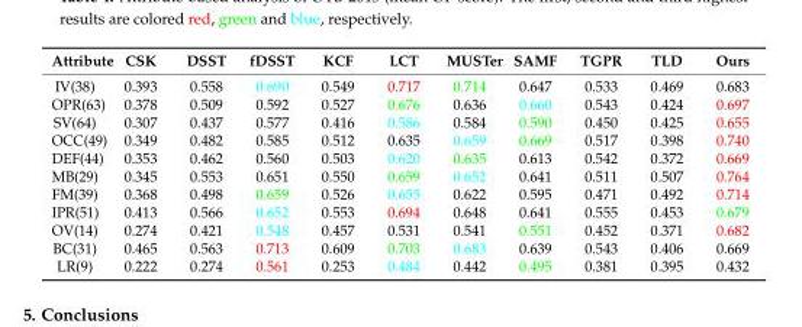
<table><thead><tr><td>Attribute</td><td>CSK</td><td>DSST</td><td>fDSST</td><td>KCF</td><td>LCT</td><td>MUSTer</td><td>SAMF</td><td>TGPR</td><td>TLD</td><td>Ours</td></tr></thead><tbody><tr><td>IV(38)</td><td>0.393</td><td>0.558</td><td>0.690</td><td>0.549</td><td>0.717</td><td>0.714</td><td>0.647</td><td>0.533</td><td>0.469</td><td>0.683</td></tr><tr><td>OPR(63)</td><td>0.378</td><td>0.509</td><td>0.592</td><td>0.527</td><td>0.676</td><td>0.636</td><td>0.660</td><td>0.543</td><td>0.424</td><td>0.697</td></tr><tr><td>SV(64)</td><td>0.307</td><td>0.437</td><td>0.577</td><td>0.416</td><td>0.586</td><td>0.584</td><td>0.590</td><td>0.450</td><td>0.425</td><td>0.655</td></tr><tr><td>OCC(49)</td><td>0.349</td><td>0.482</td><td>0.585</td><td>0.512</td><td>0.635</td><td>0.659</td><td>0.669</td><td>0.517</td><td>0.398</td><td>0.740</td></tr><tr><td>DEF(44)</td><td>0.353</td><td>0.462</td><td>0.560</td><td>0.503</td><td>0.620</td><td>0.635</td><td>0.613</td><td>0.542</td><td>0.372</td><td>0.669</td></tr><tr><td>MB(29)</td><td>0.345</td><td>0.553</td><td>0.651</td><td>0.550</td><td>0.659</td><td>0.652</td><td>0.641</td><td>0.511</td><td>0.507</td><td>0.764</td></tr><tr><td>FM(39)</td><td>0.368</td><td>0.498</td><td>0.659</td><td>0.526</td><td>0.655</td><td>0.622</td><td>0.595</td><td>0.471</td><td>0.492</td><td>0.714</td></tr><tr><td>IPR(51)</td><td>0.413</td><td>0.566</td><td>0.652</td><td>0.553</td><td>0.694</td><td>0.648</td><td>0.641</td><td>0.555</td><td>0.453</td><td>0.679</td></tr><tr><td>OV(14)</td><td>0.274</td><td>0.421</td><td>0.548</td><td>0.457</td><td>0.531</td><td>0.541</td><td>0.551</td><td>0.452</td><td>0.371</td><td>0.682</td></tr><tr><td>BC(31)</td><td>0.465</td><td>0.563</td><td>0.713</td><td>0.609</td><td>0.703</td><td>0.683</td><td>0.639</td><td>0.543</td><td>0.406</td><td>0.669</td></tr><tr><td>LR(9)</td><td>0.222</td><td>0.274</td><td>0.561</td><td>0.253</td><td>0.484</td><td>0.442</td><td>0.495</td><td>0.381</td><td>0.395</td><td>0.432</td></tr></tbody></table>